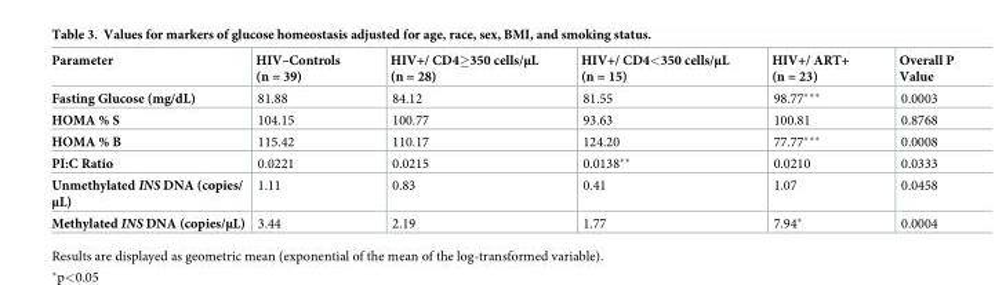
<table><thead><tr><td>Parameter</td><td>HIV–Controls (n = 39)</td><td>HIV+/ CD4≥350 cells/μL (n = 28)</td><td>HIV+/ CD4&lt;350 cells/μL (n = 15)</td><td>HIV+/ ART+ (n = 23)</td><td>Overall P Value</td></tr></thead><tbody><tr><td>Fasting Glucose (mg/dL)</td><td>81.88</td><td>84.12</td><td>81.55</td><td>98.77***</td><td>0.0003</td></tr><tr><td>HOMA % S</td><td>104.15</td><td>100.77</td><td>93.63</td><td>100.81</td><td>0.8768</td></tr><tr><td>HOMA % B</td><td>115.42</td><td>110.17</td><td>124.20</td><td>77.77***</td><td>0.0008</td></tr><tr><td>PI:C Ratio</td><td>0.0221</td><td>0.0215</td><td>0.0138**</td><td>0.0210</td><td>0.0333</td></tr><tr><td>Unmethylated INS DNA (copies/ μL)</td><td>1.11</td><td>0.83</td><td>0.41</td><td>1.07</td><td>0.0458</td></tr><tr><td>Methylated INS DNA (copies/μL)</td><td>3.44</td><td>2.19</td><td>1.77</td><td>7.94*</td><td>0.0004</td></tr></tbody></table>